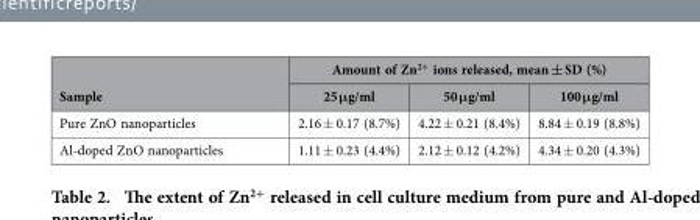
<table><thead><tr><td rowspan="2">Sample</td><td colspan="3">Amount of Zn<sup>2+</sup> ions released, mean ± SD (%)</td></tr><tr><td>25 μg/ml</td><td>50 μg/ml</td><td>100 μg/ml</td></tr></thead><tbody><tr><td>Pure ZnO nanoparticles</td><td>2.16 ± 0.17 (8.7%)</td><td>4.22 ± 0.21 (8.4%)</td><td>8.84 ± 0.19 (8.8%)</td></tr><tr><td>Al-doped ZnO nanoparticles</td><td>1.11 ± 0.23 (4.4%)</td><td>2.12 ± 0.12 (4.2%)</td><td>4.34 ± 0.20 (4.3%)</td></tr></tbody></table>